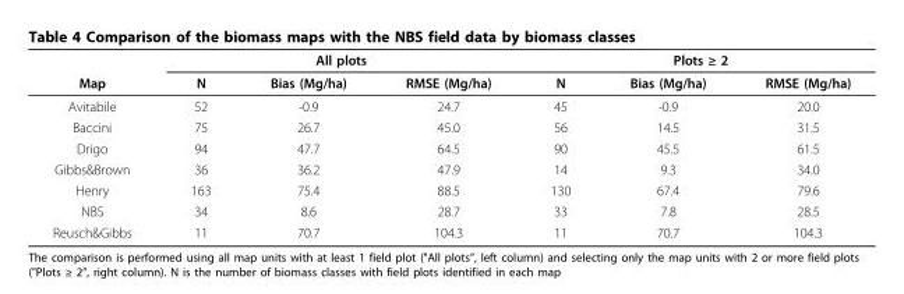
<table><thead><tr><td rowspan="2">Map</td><td colspan="3">All plots</td><td colspan="3">Plots ≥ 2</td></tr><tr><td>N</td><td>Bias (Mg/ha)</td><td>RMSE (Mg/ha)</td><td>N</td><td>Bias (Mg/ha)</td><td>RMSE (Mg/ha)</td></tr></thead><tbody><tr><td>Avitabile</td><td>52</td><td>-0.9</td><td>24.7</td><td>45</td><td>-0.9</td><td>20.0</td></tr><tr><td>Baccini</td><td>75</td><td>26.7</td><td>45.0</td><td>56</td><td>14.5</td><td>31.5</td></tr><tr><td>Drigo</td><td>94</td><td>47.7</td><td>64.5</td><td>90</td><td>45.5</td><td>61.5</td></tr><tr><td>Gibbs&amp;Brown</td><td>36</td><td>36.2</td><td>47.9</td><td>14</td><td>9.3</td><td>34.0</td></tr><tr><td>Henry</td><td>163</td><td>75.4</td><td>88.5</td><td>130</td><td>67.4</td><td>79.6</td></tr><tr><td>NBS</td><td>34</td><td>8.6</td><td>28.7</td><td>33</td><td>7.8</td><td>28.5</td></tr><tr><td>Reusch&amp;Gibbs</td><td>11</td><td>70.7</td><td>104.3</td><td>11</td><td>70.7</td><td>104.3</td></tr></tbody></table>